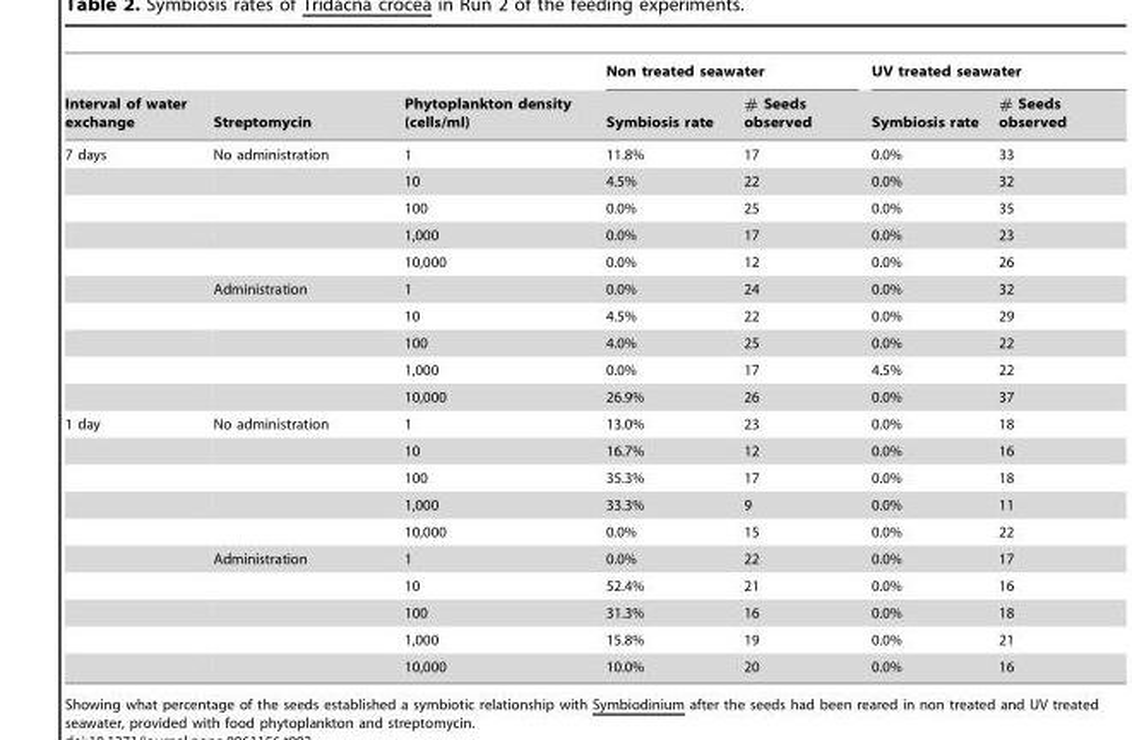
<table><thead><tr><td rowspan="2">Interval of water exchange</td><td rowspan="2">Streptomycin</td><td rowspan="2">Phytoplankton density (cells/ml)</td><td colspan="2">Non treated seawater</td><td colspan="2">UV treated seawater</td></tr><tr><td>Symbiosis rate</td><td># Seeds observed</td><td>Symbiosis rate</td><td># Seeds observed</td></tr></thead><tbody><tr><td rowspan="10">7 days</td><td>No administration</td><td>1</td><td>11.8%</td><td>17</td><td>0.0%</td><td>33</td></tr><tr><td></td><td>10</td><td>4.5%</td><td>22</td><td>0.0%</td><td>32</td></tr><tr><td></td><td>100</td><td>0.0%</td><td>25</td><td>0.0%</td><td>35</td></tr><tr><td></td><td>1,000</td><td>0.0%</td><td>17</td><td>0.0%</td><td>23</td></tr><tr><td></td><td>10,000</td><td>0.0%</td><td>12</td><td>0.0%</td><td>26</td></tr><tr><td>Administration</td><td>1</td><td>0.0%</td><td>24</td><td>0.0%</td><td>32</td></tr><tr><td></td><td>10</td><td>4.5%</td><td>22</td><td>0.0%</td><td>29</td></tr><tr><td></td><td>100</td><td>4.0%</td><td>25</td><td>0.0%</td><td>22</td></tr><tr><td></td><td>1,000</td><td>0.0%</td><td>17</td><td>4.5%</td><td>22</td></tr><tr><td></td><td>10,000</td><td>26.9%</td><td>26</td><td>0.0%</td><td>37</td></tr><tr><td rowspan="10">1 day</td><td>No administration</td><td>1</td><td>13.0%</td><td>23</td><td>0.0%</td><td>18</td></tr><tr><td></td><td>10</td><td>16.7%</td><td>12</td><td>0.0%</td><td>16</td></tr><tr><td></td><td>100</td><td>35.3%</td><td>17</td><td>0.0%</td><td>18</td></tr><tr><td></td><td>1,000</td><td>33.3%</td><td>9</td><td>0.0%</td><td>11</td></tr><tr><td></td><td>10,000</td><td>0.0%</td><td>15</td><td>0.0%</td><td>22</td></tr><tr><td>Administration</td><td>1</td><td>0.0%</td><td>22</td><td>0.0%</td><td>17</td></tr><tr><td></td><td>10</td><td>52.4%</td><td>21</td><td>0.0%</td><td>16</td></tr><tr><td></td><td>100</td><td>31.3%</td><td>16</td><td>0.0%</td><td>18</td></tr><tr><td></td><td>1,000</td><td>15.8%</td><td>19</td><td>0.0%</td><td>21</td></tr><tr><td></td><td>10,000</td><td>10.0%</td><td>20</td><td>0.0%</td><td>16</td></tr></tbody></table>